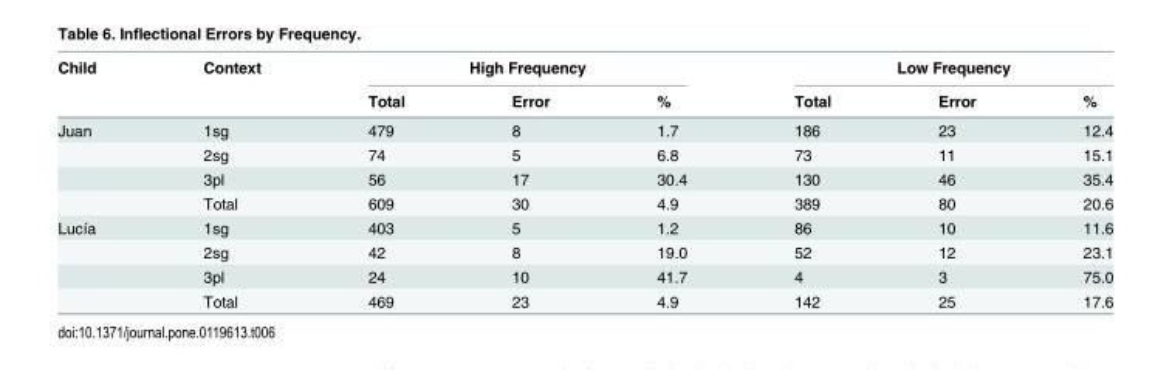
<table><thead><tr><td rowspan="2">Child</td><td rowspan="2">Context</td><td colspan="3">High Frequency</td><td colspan="3">Low Frequency</td></tr><tr><td>Total</td><td>Error</td><td>%</td><td>Total</td><td>Error</td><td>%</td></tr></thead><tbody><tr><td rowspan="4">Juan</td><td>1sg</td><td>479</td><td>8</td><td>1.7</td><td>186</td><td>23</td><td>12.4</td></tr><tr><td>2sg</td><td>74</td><td>5</td><td>6.8</td><td>73</td><td>11</td><td>15.1</td></tr><tr><td>3pl</td><td>56</td><td>17</td><td>30.4</td><td>130</td><td>46</td><td>35.4</td></tr><tr><td>Total</td><td>609</td><td>30</td><td>4.9</td><td>389</td><td>80</td><td>20.6</td></tr><tr><td rowspan="4">Lucía</td><td>1sg</td><td>403</td><td>5</td><td>1.2</td><td>86</td><td>10</td><td>11.6</td></tr><tr><td>2sg</td><td>42</td><td>8</td><td>19.0</td><td>52</td><td>12</td><td>23.1</td></tr><tr><td>3pl</td><td>24</td><td>10</td><td>41.7</td><td>4</td><td>3</td><td>75.0</td></tr><tr><td>Total</td><td>469</td><td>23</td><td>4.9</td><td>142</td><td>25</td><td>17.6</td></tr></tbody></table>